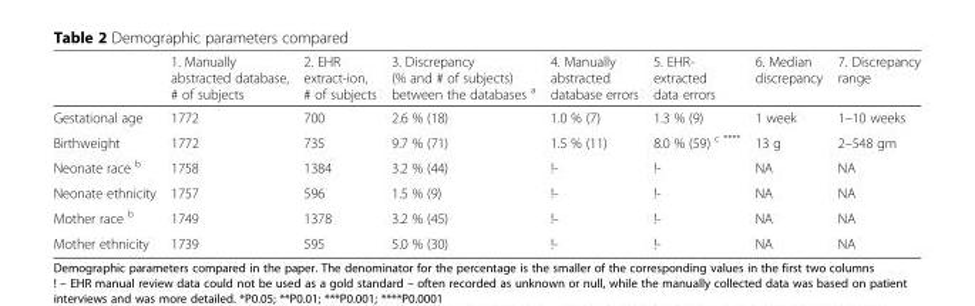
<table><thead><tr><td></td><td>1. Manually abstracted database, # of subjects</td><td>2. EHR extract-ion, # of subjects</td><td>3. Discrepancy (% and # of subjects) between the databases <sup>a</sup></td><td>4. Manually abstracted database errors</td><td>5. EHR- extracted data errors</td><td>6. Median discrepancy</td><td>7. Discrepancy range</td></tr></thead><tbody><tr><td>Gestational age</td><td>1772</td><td>700</td><td>2.6 % (18)</td><td>1.0 % (7)</td><td>1.3 % (9)</td><td>1 week</td><td>1–10 weeks</td></tr><tr><td>Birthweight</td><td>1772</td><td>735</td><td>9.7 % (71)</td><td>1.5 % (11)</td><td>8.0 % (59) <sup>c ****</sup></td><td>13 g</td><td>2–548 gm</td></tr><tr><td>Neonate race <sup>b</sup></td><td>1758</td><td>1384</td><td>3.2 % (44)</td><td>!-</td><td>!-</td><td>NA</td><td>NA</td></tr><tr><td>Neonate ethnicity</td><td>1757</td><td>596</td><td>1.5 % (9)</td><td>!-</td><td>!-</td><td>NA</td><td>NA</td></tr><tr><td>Mother race <sup>b</sup></td><td>1749</td><td>1378</td><td>3.2 % (45)</td><td>!-</td><td>!-</td><td>NA</td><td>NA</td></tr><tr><td>Mother ethnicity</td><td>1739</td><td>595</td><td>5.0 % (30)</td><td>!-</td><td>!-</td><td>NA</td><td>NA</td></tr></tbody></table>